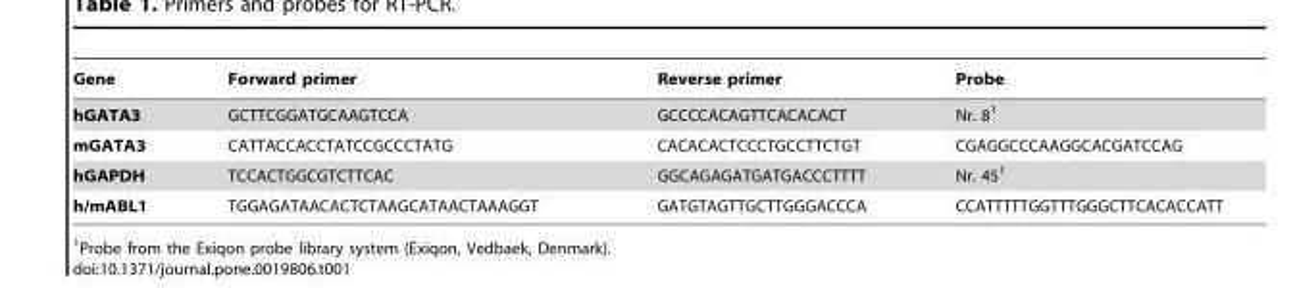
<table><thead><tr><td>Gene</td><td>Forward primer</td><td>Reverse primer</td><td>Probe</td></tr></thead><tbody><tr><td>hGATA3</td><td>GCTTCGGATGCAAGTCCA</td><td>GCCCCACAGTTCACACACT</td><td>Nr. 8<sup>1</sup></td></tr><tr><td>mGATA3</td><td>CATTACCACCTATCCGCCCTATG</td><td>CACACACTCCCTGCCTTCTGT</td><td>CGAGGCCCAAGGCACGATCCAG</td></tr><tr><td>hGAPDH</td><td>TCCACTGGCGTCTTCAC</td><td>GGCAGAGATGATGACCCTTTT</td><td>Nr. 45<sup>1</sup></td></tr><tr><td>h/mABL1</td><td>TGGAGATAACACTCTAAGCATAACTAAAGGT</td><td>GATGTAGTTGCTTGGGACCCA</td><td>CCATTTTTGGTTTGGGCTTCACACCATT</td></tr></tbody></table>